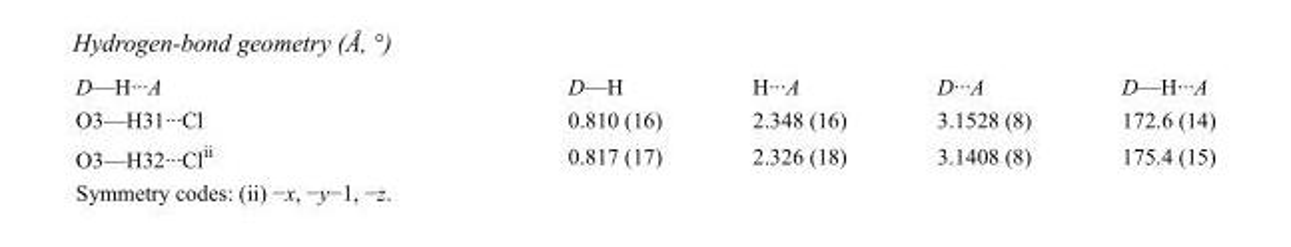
<table><tbody><tr><td>D—H···A</td><td>D—H</td><td>H···A</td><td>D···A</td><td>D—H···A</td></tr><tr><td>O3—H31···Cl</td><td>0.810 (16)</td><td>2.348 (16)</td><td>3.1528 (8)</td><td>172.6 (14)</td></tr><tr><td>O3—H32···Cl<sup>ii</sup></td><td>0.817 (17)</td><td>2.326 (18)</td><td>3.1408 (8)</td><td>175.4 (15)</td></tr></tbody></table>